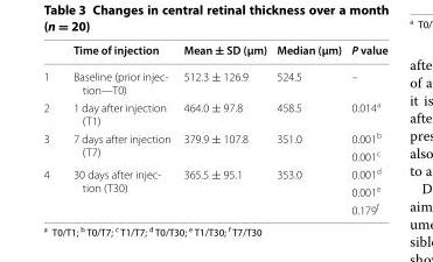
<table><thead><tr><td></td><td>Time of injection</td><td>Mean ± SD (µm)</td><td>Median (µm)</td><td>P value</td></tr></thead><tbody><tr><td>1</td><td>Baseline (prior injec- tion—T0)</td><td>512.3 ± 126.9</td><td>524.5</td><td>–</td></tr><tr><td>2</td><td>1 day after injection (T1)</td><td>464.0 ± 97.8</td><td>458.5</td><td>0.014<sup>a</sup></td></tr><tr><td rowspan="2">3</td><td rowspan="2">7 days after injection (T7)</td><td rowspan="2">379.9 ± 107.8</td><td rowspan="2">351.0</td><td>0.001<sup>b</sup></td></tr><tr><td>0.001<sup>c</sup></td></tr><tr><td rowspan="3">4</td><td rowspan="3">30 days after injec- tion (T30)</td><td rowspan="3">365.5 ± 95.1</td><td rowspan="3">353.0</td><td>0.001<sup>d</sup></td></tr><tr><td>0.001<sup>e</sup></td></tr><tr><td>0.179<sup>f</sup></td></tr></tbody></table>